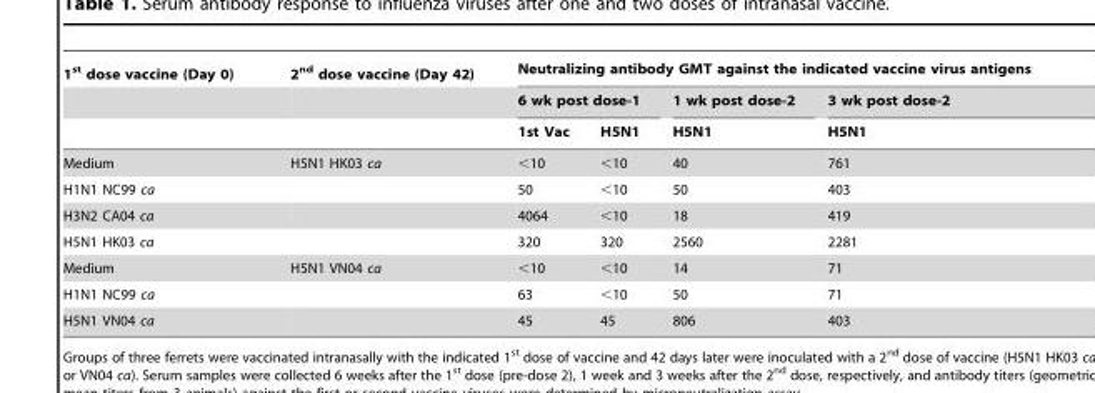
<table><thead><tr><td rowspan="3">1<sup>st</sup> dose vaccine (Day 0)</td><td rowspan="3">2<sup>nd</sup> dose vaccine (Day 42)</td><td colspan="4">Neutralizing antibody GMT against the indicated vaccine virus antigens</td></tr><tr><td colspan="2">6 wk post dose-1</td><td rowspan="2">1 wk post dose-2 H5N1</td><td rowspan="2">3 wk post dose-2 H5N1</td></tr><tr><td>1st Vac</td><td>H5N1</td></tr></thead><tbody><tr><td>Medium</td><td>H5N1 HK03 ca</td><td>&lt;10</td><td>&lt;10</td><td>40</td><td>761</td></tr><tr><td>H1N1 NC99 ca</td><td></td><td>50</td><td>&lt;10</td><td>50</td><td>403</td></tr><tr><td>H3N2 CA04 ca</td><td></td><td>4064</td><td>&lt;10</td><td>18</td><td>419</td></tr><tr><td>H5N1 HK03 ca</td><td></td><td>320</td><td>320</td><td>2560</td><td>2281</td></tr><tr><td>Medium</td><td>H5N1 VN04 ca</td><td>&lt;10</td><td>&lt;10</td><td>14</td><td>71</td></tr><tr><td>H1N1 NC99 ca</td><td></td><td>63</td><td>&lt;10</td><td>50</td><td>71</td></tr><tr><td>H5N1 VN04 ca</td><td></td><td>45</td><td>45</td><td>806</td><td>403</td></tr></tbody></table>